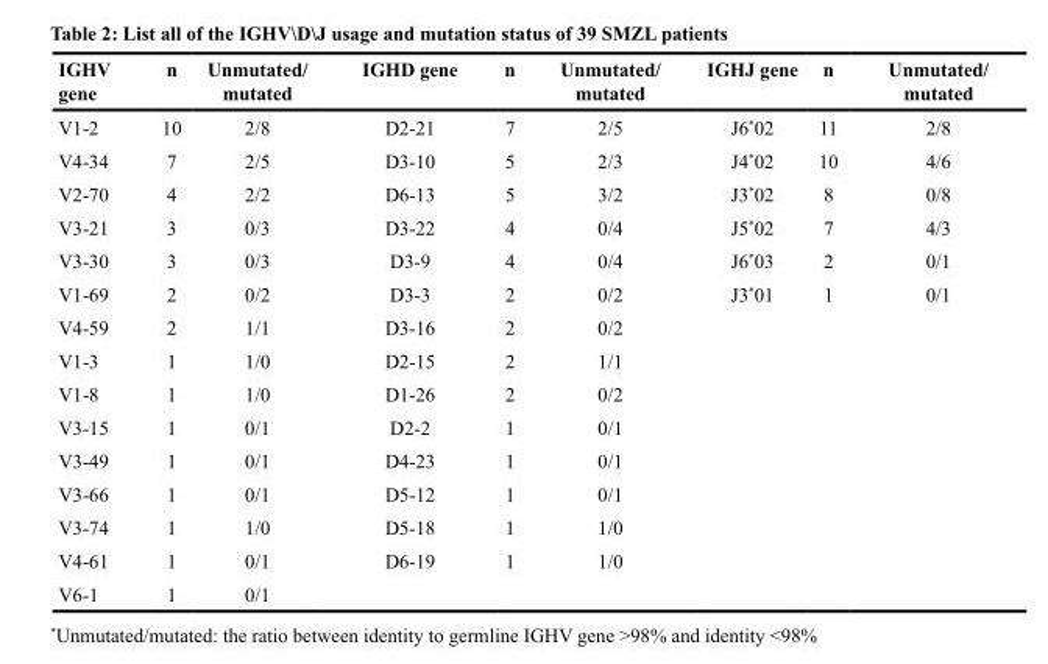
<table><thead><tr><td>IGHV gene</td><td>n</td><td>Unmutated/ mutated</td><td>IGHD gene</td><td>n</td><td>Unmutated/ mutated</td><td>IGHJ gene</td><td>n</td><td>Unmutated/ mutated</td></tr></thead><tbody><tr><td>V1-2</td><td>10</td><td>2/8</td><td>D2-21</td><td>7</td><td>2/5</td><td>J6*02</td><td>11</td><td>2/8</td></tr><tr><td>V4-34</td><td>7</td><td>2/5</td><td>D3-10</td><td>5</td><td>2/3</td><td>J4*02</td><td>10</td><td>4/6</td></tr><tr><td>V2-70</td><td>4</td><td>2/2</td><td>D6-13</td><td>5</td><td>3/2</td><td>J3*02</td><td>8</td><td>0/8</td></tr><tr><td>V3-21</td><td>3</td><td>0/3</td><td>D3-22</td><td>4</td><td>0/4</td><td>J5*02</td><td>7</td><td>4/3</td></tr><tr><td>V3-30</td><td>3</td><td>0/3</td><td>D3-9</td><td>4</td><td>0/4</td><td>J6*03</td><td>2</td><td>0/1</td></tr><tr><td>V1-69</td><td>2</td><td>0/2</td><td>D3-3</td><td>2</td><td>0/2</td><td>J3*01</td><td>1</td><td>0/1</td></tr><tr><td>V4-59</td><td>2</td><td>1/1</td><td>D3-16</td><td>2</td><td>0/2</td><td></td><td></td><td></td></tr><tr><td>V1-3</td><td>1</td><td>1/0</td><td>D2-15</td><td>2</td><td>1/1</td><td></td><td></td><td></td></tr><tr><td>V1-8</td><td>1</td><td>1/0</td><td>D1-26</td><td>2</td><td>0/2</td><td></td><td></td><td></td></tr><tr><td>V3-15</td><td>1</td><td>0/1</td><td>D2-2</td><td>1</td><td>0/1</td><td></td><td></td><td></td></tr><tr><td>V3-49</td><td>1</td><td>0/1</td><td>D4-23</td><td>1</td><td>0/1</td><td></td><td></td><td></td></tr><tr><td>V3-66</td><td>1</td><td>0/1</td><td>D5-12</td><td>1</td><td>0/1</td><td></td><td></td><td></td></tr><tr><td>V3-74</td><td>1</td><td>1/0</td><td>D5-18</td><td>1</td><td>1/0</td><td></td><td></td><td></td></tr><tr><td>V4-61</td><td>1</td><td>0/1</td><td>D6-19</td><td>1</td><td>1/0</td><td></td><td></td><td></td></tr><tr><td>V6-1</td><td>1</td><td>0/1</td><td></td><td></td><td></td><td></td><td></td><td></td></tr></tbody></table>